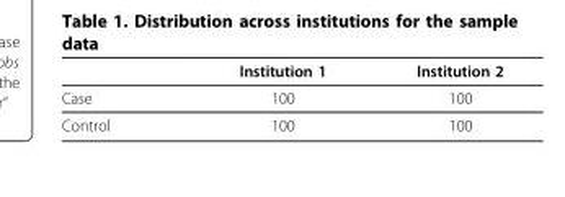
<table><thead><tr><td></td><td>Institution 1</td><td>Institution 2</td></tr></thead><tbody><tr><td>Case</td><td>100</td><td>100</td></tr><tr><td>Control</td><td>100</td><td>100</td></tr></tbody></table>